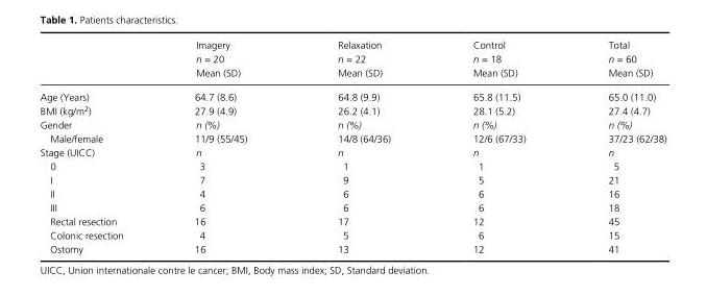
<table><thead><tr><td></td><td>Imagery n = 20 Mean (SD)</td><td>Relaxation n = 22 Mean (SD)</td><td>Control n = 18 Mean (SD)</td><td>Total n = 60 Mean (SD)</td></tr></thead><tbody><tr><td>Age (Years)</td><td>64.7 (8.6)</td><td>64.8 (9.9)</td><td>65.8 (11.5)</td><td>65.0 (11.0)</td></tr><tr><td>BMI (kg/m<sup>2</sup>)</td><td>27.9 (4.9)</td><td>26.2 (4.1)</td><td>28.1 (5.2)</td><td>27.4 (4.7)</td></tr><tr><td>Gender</td><td>n (%)</td><td>n (%)</td><td>n (%)</td><td>n (%)</td></tr><tr><td>Male/female</td><td>11/9 (55/45)</td><td>14/8 (64/36)</td><td>12/6 (67/33)</td><td>37/23 (62/38)</td></tr><tr><td>Stage (UICC)</td><td>n</td><td>n</td><td>n</td><td>n</td></tr><tr><td>0</td><td>3</td><td>1</td><td>1</td><td>5</td></tr><tr><td>I</td><td>7</td><td>9</td><td>5</td><td>21</td></tr><tr><td>II</td><td>4</td><td>6</td><td>6</td><td>16</td></tr><tr><td>III</td><td>6</td><td>6</td><td>6</td><td>18</td></tr><tr><td>Rectal resection</td><td>16</td><td>17</td><td>12</td><td>45</td></tr><tr><td>Colonic resection</td><td>4</td><td>5</td><td>6</td><td>15</td></tr><tr><td>Ostomy</td><td>16</td><td>13</td><td>12</td><td>41</td></tr></tbody></table>